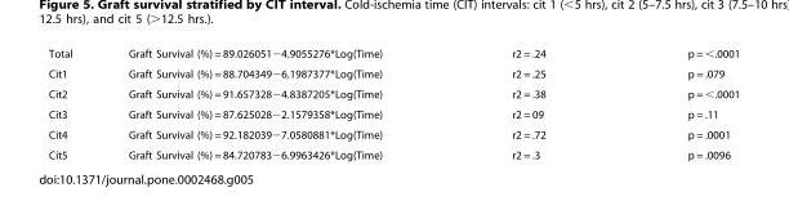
<table><tbody><tr><td>Total</td><td>Graft Survival (%) = 89.026051−4.9055276*Log(Time)</td><td>r2 = .24</td><td>p = &lt;.0001</td></tr><tr><td>Cit1</td><td>Graft Survival (%) = 88.704349−6.1987377*Log(Time)</td><td>r2 = .25</td><td>p = .079</td></tr><tr><td>Cit2</td><td>Graft Survival (%) = 91.657328−4.8387205*Log(Time)</td><td>r2 = .38</td><td>p = &lt;.0001</td></tr><tr><td>Cit3</td><td>Graft Survival (%) = 87.625028−2.1579358*Log(Time)</td><td>r2 = 09</td><td>p = .11</td></tr><tr><td>Cit4</td><td>Graft Survival (%) = 92.182039−7.0580881*Log(Time)</td><td>r2 = .72</td><td>p = .0001</td></tr><tr><td>Cit5</td><td>Graft Survival (%) = 84.720783−6.9963426*Log(Time)</td><td>r2 = .3</td><td>p = .0096</td></tr></tbody></table>